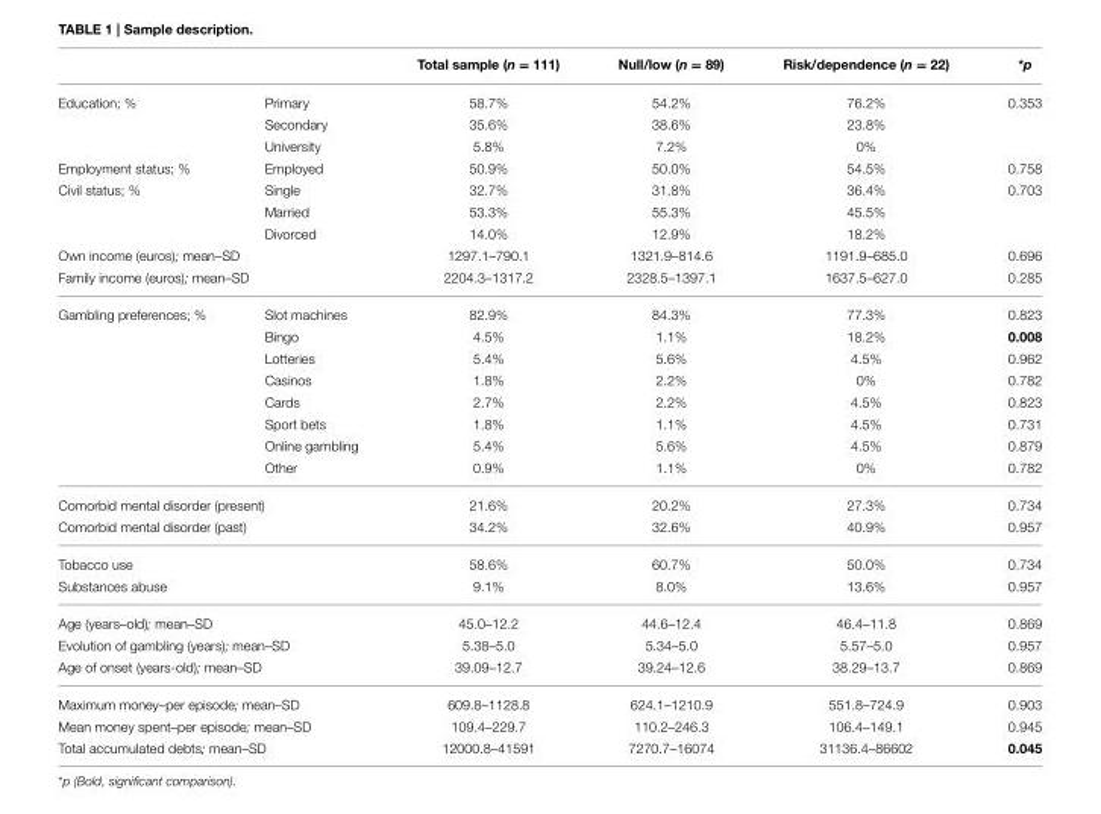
<table><thead><tr><td></td><td></td><td>Total sample (n = 111)</td><td>Null/low (n = 89)</td><td>Risk/dependence (n = 22)</td><td>*p</td></tr></thead><tbody><tr><td rowspan="3">Education; %</td><td>Primary</td><td>58.7%</td><td>54.2%</td><td>76.2%</td><td>0.353</td></tr><tr><td>Secondary</td><td>35.6%</td><td>38.6%</td><td>23.8%</td><td></td></tr><tr><td>University</td><td>5.8%</td><td>7.2%</td><td>0%</td><td></td></tr><tr><td>Employment status; %</td><td>Employed</td><td>50.9%</td><td>50.0%</td><td>54.5%</td><td>0.758</td></tr><tr><td rowspan="3">Civil status; %</td><td>Single</td><td>32.7%</td><td>31.8%</td><td>36.4%</td><td>0.703</td></tr><tr><td>Married</td><td>53.3%</td><td>55.3%</td><td>45.5%</td><td></td></tr><tr><td>Divorced</td><td>14.0%</td><td>12.9%</td><td>18.2%</td><td></td></tr><tr><td colspan="2">Own income (euros); mean–SD</td><td>1297.1–790.1</td><td>1321.9–814.6</td><td>1191.9–685.0</td><td>0.696</td></tr><tr><td colspan="2">Family income (euros); mean–SD</td><td>2204.3–1317.2</td><td>2328.5–1397.1</td><td>1637.5–627.0</td><td>0.285</td></tr><tr><td rowspan="8">Gambling preferences; %</td><td>Slot machines</td><td>82.9%</td><td>84.3%</td><td>77.3%</td><td>0.823</td></tr><tr><td>Bingo</td><td>4.5%</td><td>1.1%</td><td>18.2%</td><td>0.008</td></tr><tr><td>Lotteries</td><td>5.4%</td><td>5.6%</td><td>4.5%</td><td>0.962</td></tr><tr><td>Casinos</td><td>1.8%</td><td>2.2%</td><td>0%</td><td>0.782</td></tr><tr><td>Cards</td><td>2.7%</td><td>2.2%</td><td>4.5%</td><td>0.823</td></tr><tr><td>Sport bets</td><td>1.8%</td><td>1.1%</td><td>4.5%</td><td>0.731</td></tr><tr><td>Online gambling</td><td>5.4%</td><td>5.6%</td><td>4.5%</td><td>0.879</td></tr><tr><td>Other</td><td>0.9%</td><td>1.1%</td><td>0%</td><td>0.782</td></tr><tr><td colspan="2">Comorbid mental disorder (present)</td><td>21.6%</td><td>20.2%</td><td>27.3%</td><td>0.734</td></tr><tr><td colspan="2">Comorbid mental disorder (past)</td><td>34.2%</td><td>32.6%</td><td>40.9%</td><td>0.957</td></tr><tr><td colspan="2">Tobacco use</td><td>58.6%</td><td>60.7%</td><td>50.0%</td><td>0.734</td></tr><tr><td colspan="2">Substances abuse</td><td>9.1%</td><td>8.0%</td><td>13.6%</td><td>0.957</td></tr><tr><td colspan="2">Age (years–old); mean–SD</td><td>45.0–12.2</td><td>44.6–12.4</td><td>46.4–11.8</td><td>0.869</td></tr><tr><td colspan="2">Evolution of gambling (years); mean–SD</td><td>5.38–5.0</td><td>5.34–5.0</td><td>5.57–5.0</td><td>0.957</td></tr><tr><td colspan="2">Age of onset (years-old); mean–SD</td><td>39.09–12.7</td><td>39.24–12.6</td><td>38.29–13.7</td><td>0.869</td></tr><tr><td colspan="2">Maximum money–per episode; mean–SD</td><td>609.8–1128.8</td><td>624.1–1210.9</td><td>551.8–724.9</td><td>0.903</td></tr><tr><td colspan="2">Mean money spent–per episode; mean–SD</td><td>109.4–229.7</td><td>110.2–246.3</td><td>106.4–149.1</td><td>0.945</td></tr><tr><td colspan="2">Total accumulated debts; mean–SD</td><td>12000.8–41591</td><td>7270.7–16074</td><td>31136.4–86602</td><td>0.045</td></tr></tbody></table>